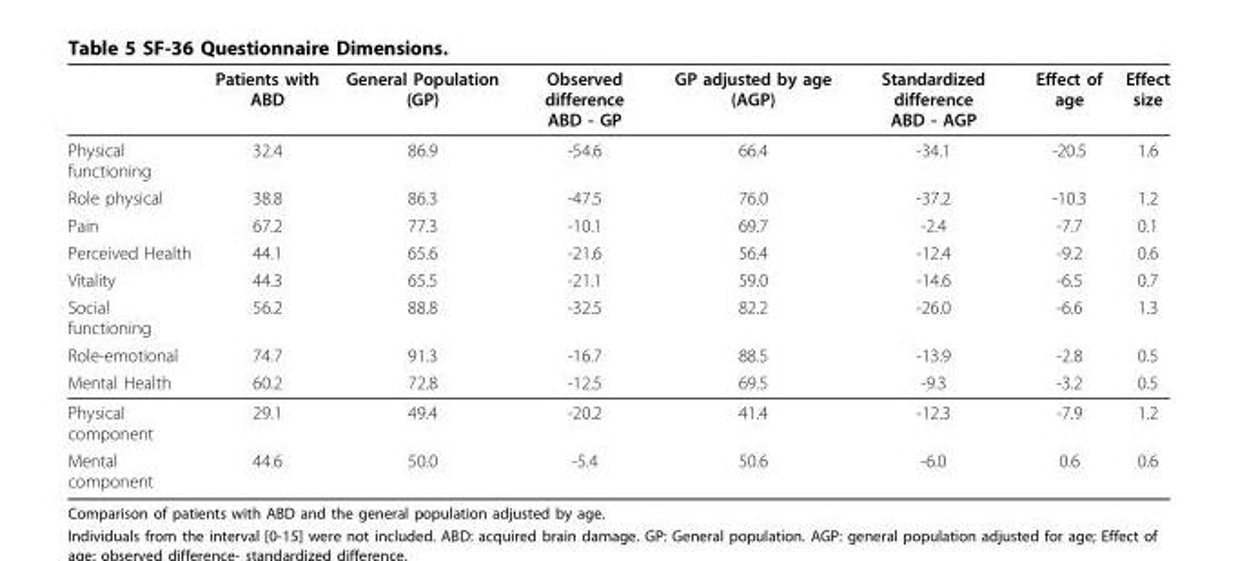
<table><thead><tr><td></td><td>Patients with ABD</td><td>General Population (GP)</td><td>Observed difference ABD - GP</td><td>GP adjusted by age (AGP)</td><td>Standardized difference ABD - AGP</td><td>Effect of age</td><td>Effect size</td></tr></thead><tbody><tr><td>Physical functioning</td><td>32.4</td><td>86.9</td><td>-54.6</td><td>66.4</td><td>-34.1</td><td>-20.5</td><td>1.6</td></tr><tr><td>Role physical</td><td>38.8</td><td>86.3</td><td>-47.5</td><td>76.0</td><td>-37.2</td><td>-10.3</td><td>1.2</td></tr><tr><td>Pain</td><td>67.2</td><td>77.3</td><td>-10.1</td><td>69.7</td><td>-2.4</td><td>-7.7</td><td>0.1</td></tr><tr><td>Perceived Health</td><td>44.1</td><td>65.6</td><td>-21.6</td><td>56.4</td><td>-12.4</td><td>-9.2</td><td>0.6</td></tr><tr><td>Vitality</td><td>44.3</td><td>65.5</td><td>-21.1</td><td>59.0</td><td>-14.6</td><td>-6.5</td><td>0.7</td></tr><tr><td>Social functioning</td><td>56.2</td><td>88.8</td><td>-32.5</td><td>82.2</td><td>-26.0</td><td>-6.6</td><td>1.3</td></tr><tr><td>Role-emotional</td><td>74.7</td><td>91.3</td><td>-16.7</td><td>88.5</td><td>-13.9</td><td>-2.8</td><td>0.5</td></tr><tr><td>Mental Health</td><td>60.2</td><td>72.8</td><td>-12.5</td><td>69.5</td><td>-9.3</td><td>-3.2</td><td>0.5</td></tr><tr><td>Physical component</td><td>29.1</td><td>49.4</td><td>-20.2</td><td>41.4</td><td>-12.3</td><td>-7.9</td><td>1.2</td></tr><tr><td>Mental component</td><td>44.6</td><td>50.0</td><td>-5.4</td><td>50.6</td><td>-6.0</td><td>0.6</td><td>0.6</td></tr></tbody></table>